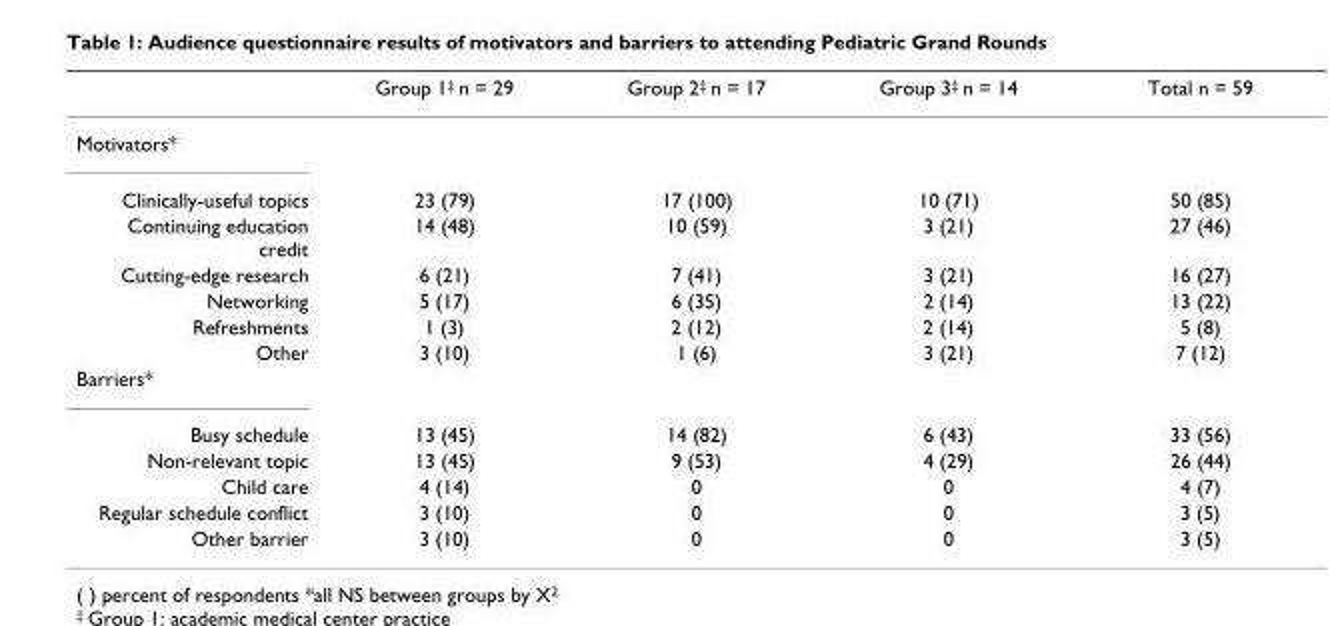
<table><thead><tr><td></td><td>Group 1‡ n = 29</td><td>Group 2‡ n = 17</td><td>Group 3‡ n = 14</td><td>Total n = 59</td></tr></thead><tbody><tr><td colspan="5">Motivators*</td></tr><tr><td>Clinically-useful topics</td><td>23 (79)</td><td>17 (100)</td><td>10 (71)</td><td>50 (85)</td></tr><tr><td>Continuing education credit</td><td>14 (48)</td><td>10 (59)</td><td>3 (21)</td><td>27 (46)</td></tr><tr><td>Cutting-edge research</td><td>6 (21)</td><td>7 (41)</td><td>3 (21)</td><td>16 (27)</td></tr><tr><td>Networking</td><td>5 (17)</td><td>6 (35)</td><td>2 (14)</td><td>13 (22)</td></tr><tr><td>Refreshments</td><td>1 (3)</td><td>2 (12)</td><td>2 (14)</td><td>5 (8)</td></tr><tr><td>Other</td><td>3 (10)</td><td>1 (6)</td><td>3 (21)</td><td>7 (12)</td></tr><tr><td colspan="5">Barriers*</td></tr><tr><td>Busy schedule</td><td>13 (45)</td><td>14 (82)</td><td>6 (43)</td><td>33 (56)</td></tr><tr><td>Non-relevant topic</td><td>13 (45)</td><td>9 (53)</td><td>4 (29)</td><td>26 (44)</td></tr><tr><td>Child care</td><td>4 (14)</td><td>0</td><td>0</td><td>4 (7)</td></tr><tr><td>Regular schedule conflict</td><td>3 (10)</td><td>0</td><td>0</td><td>3 (5)</td></tr><tr><td>Other barrier</td><td>3 (10)</td><td>0</td><td>0</td><td>3 (5)</td></tr></tbody></table>